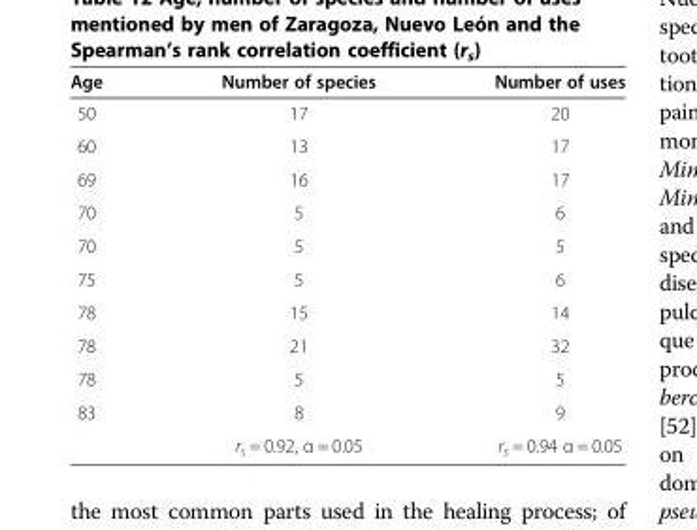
<table><thead><tr><td>Age</td><td>Number of species</td><td>Number of uses</td></tr></thead><tbody><tr><td>50</td><td>17</td><td>20</td></tr><tr><td>60</td><td>13</td><td>17</td></tr><tr><td>69</td><td>16</td><td>17</td></tr><tr><td>70</td><td>5</td><td>6</td></tr><tr><td>70</td><td>5</td><td>5</td></tr><tr><td>75</td><td>5</td><td>6</td></tr><tr><td>78</td><td>15</td><td>14</td></tr><tr><td>78</td><td>21</td><td>32</td></tr><tr><td>78</td><td>5</td><td>5</td></tr><tr><td rowspan="2">83</td><td>8</td><td>9</td></tr><tr><td>r<sub>s</sub> = 0.92, α = 0.05</td><td>r<sub>s</sub> = 0.94 α = 0.05</td></tr></tbody></table>